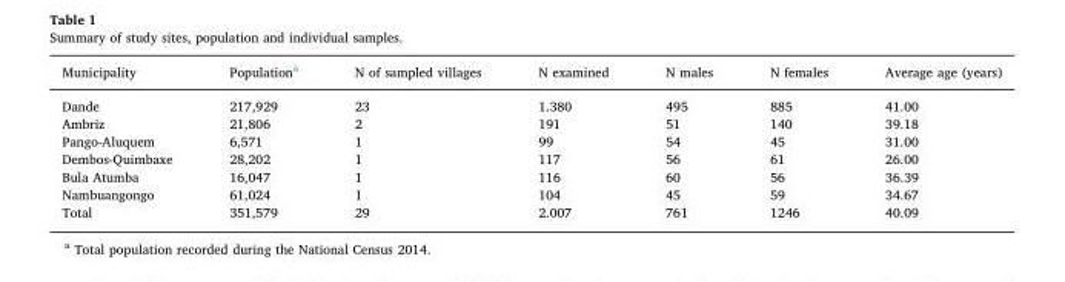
<table><thead><tr><td>Municipality</td><td>Population<sup>a</sup></td><td>N of sampled villages</td><td>N examined</td><td>N males</td><td>N females</td><td>Average age (years)</td></tr></thead><tbody><tr><td>Dande</td><td>217,929</td><td>23</td><td>1.380</td><td>495</td><td>885</td><td>41.00</td></tr><tr><td>Ambriz</td><td>21,806</td><td>2</td><td>191</td><td>51</td><td>140</td><td>39.18</td></tr><tr><td>Pango-Aluquem</td><td>6,571</td><td>1</td><td>99</td><td>54</td><td>45</td><td>31.00</td></tr><tr><td>Dembos-Quimbaxe</td><td>28,202</td><td>1</td><td>117</td><td>56</td><td>61</td><td>26.00</td></tr><tr><td>Bula Atumba</td><td>16,047</td><td>1</td><td>116</td><td>60</td><td>56</td><td>36.39</td></tr><tr><td>Nambuangongo</td><td>61,024</td><td>1</td><td>104</td><td>45</td><td>59</td><td>34.67</td></tr><tr><td>Total</td><td>351,579</td><td>29</td><td>2.007</td><td>761</td><td>1246</td><td>40.09</td></tr></tbody></table>